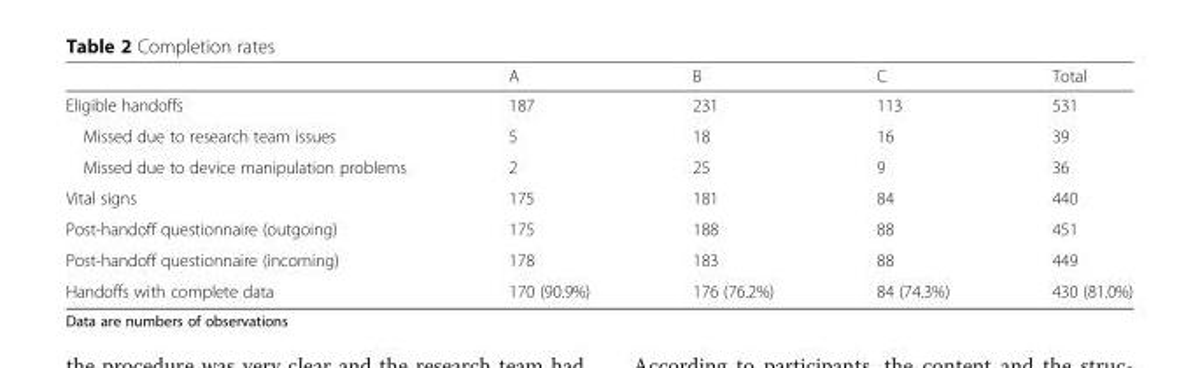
<table><thead><tr><td></td><td>A</td><td>B</td><td>C</td><td>Total</td></tr></thead><tbody><tr><td>Eligible handoffs</td><td>187</td><td>231</td><td>113</td><td>531</td></tr><tr><td>Missed due to research team issues</td><td>5</td><td>18</td><td>16</td><td>39</td></tr><tr><td>Missed due to device manipulation problems</td><td>2</td><td>25</td><td>9</td><td>36</td></tr><tr><td>Vital signs</td><td>175</td><td>181</td><td>84</td><td>440</td></tr><tr><td>Post-handoff questionnaire (outgoing)</td><td>175</td><td>188</td><td>88</td><td>451</td></tr><tr><td>Post-handoff questionnaire (incoming)</td><td>178</td><td>183</td><td>88</td><td>449</td></tr><tr><td>Handoffs with complete data</td><td>170 (90.9%)</td><td>176 (76.2%)</td><td>84 (74.3%)</td><td>430 (81.0%)</td></tr></tbody></table>